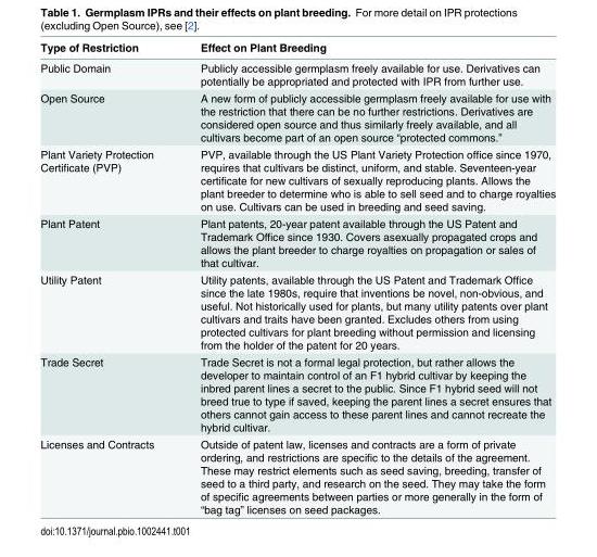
<table><thead><tr><td>Type of Restriction</td><td>Effect on Plant Breeding</td></tr></thead><tbody><tr><td>Public Domain</td><td>Publicly accessible germplasm freely available for use. Derivatives can potentially be appropriated and protected with IPR from further use.</td></tr><tr><td>Open Source</td><td>A new form of publicly accessible germplasm freely available for use with the restriction that there can be no further restrictions. Derivatives are considered open source and thus similarly freely available, and all cultivars become part of an open source “protected commons.”</td></tr><tr><td>Plant Variety Protection Certificate (PVP)</td><td>PVP, available through the US Plant Variety Protection office since 1970, requires that cultivars be distinct, uniform, and stable. Seventeen-year certificate for new cultivars of sexually reproducing plants. Allows the plant breeder to determine who is able to sell seed and to charge royalties on use. Cultivars can be used in breeding and seed saving.</td></tr><tr><td>Plant Patent</td><td>Plant patents, 20-year patent available through the US Patent and Trademark Office since 1930. Covers asexually propagated crops and allows the plant breeder to charge royalties on propagation or sales of that cultivar.</td></tr><tr><td>Utility Patent</td><td>Utility patents, available through the US Patent and Trademark Office since the late 1980s, require that inventions be novel, non-obvious, and useful. Not historically used for plants, but many utility patents over plant cultivars and traits have been granted. Excludes others from using protected cultivars for plant breeding without permission and licensing from the holder of the patent for 20 years.</td></tr><tr><td>Trade Secret</td><td>Trade Secret is not a formal legal protection, but rather allows the developer to maintain control of an F1 hybrid cultivar by keeping the inbred parent lines a secret to the public. Since F1 hybrid seed will not breed true to type if saved, keeping the parent lines a secret ensures that others cannot gain access to these parent lines and cannot recreate the hybrid cultivar.</td></tr><tr><td>Licenses and Contracts</td><td>Outside of patent law, licenses and contracts are a form of private ordering, and restrictions are specific to the details of the agreement. These may restrict elements such as seed saving, breeding, transfer of seed to a third party, and research on the seed. They may take the form of specific agreements between parties or more generally in the form of “bag tag” licenses on seed packages.</td></tr></tbody></table>